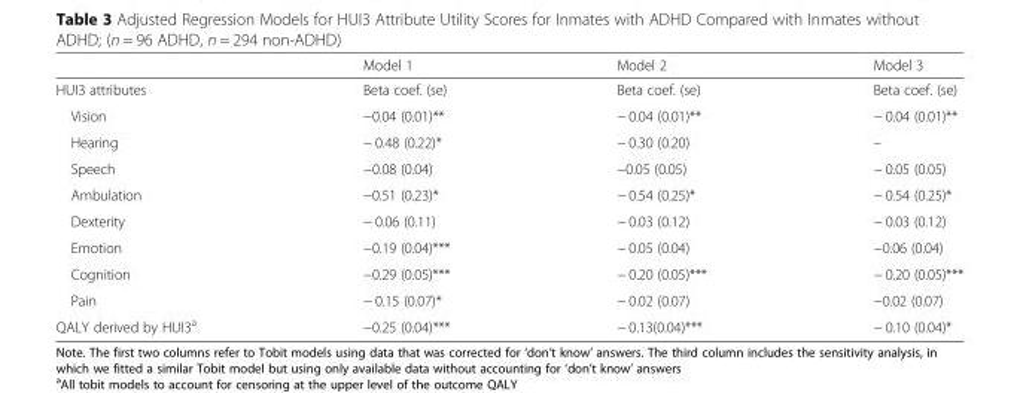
<table><thead><tr><td></td><td>Model 1</td><td>Model 2</td><td>Model 3</td></tr></thead><tbody><tr><td>HUI3 attributes</td><td>Beta coef. (se)</td><td>Beta coef. (se)</td><td>Beta coef. (se)</td></tr><tr><td>Vision</td><td>−0.04 (0.01)**</td><td>− 0.04 (0.01)**</td><td>− 0.04 (0.01)**</td></tr><tr><td>Hearing</td><td>− 0.48 (0.22)*</td><td>− 0.30 (0.20)</td><td>–</td></tr><tr><td>Speech</td><td>−0.08 (0.04)</td><td>−0.05 (0.05)</td><td>− 0.05 (0.05)</td></tr><tr><td>Ambulation</td><td>−0.51 (0.23)*</td><td>− 0.54 (0.25)*</td><td>− 0.54 (0.25)*</td></tr><tr><td>Dexterity</td><td>− 0.06 (0.11)</td><td>− 0.03 (0.12)</td><td>− 0.03 (0.12)</td></tr><tr><td>Emotion</td><td>−0.19 (0.04)***</td><td>− 0.05 (0.04)</td><td>−0.06 (0.04)</td></tr><tr><td>Cognition</td><td>−0.29 (0.05)***</td><td>− 0.20 (0.05)***</td><td>− 0.20 (0.05)***</td></tr><tr><td>Pain</td><td>− 0.15 (0.07)*</td><td>− 0.02 (0.07)</td><td>−0.02 (0.07)</td></tr><tr><td>QALY derived by HUI3<sup>a</sup></td><td>−0.25 (0.04)***</td><td>− 0.13(0.04)***</td><td>− 0.10 (0.04)*</td></tr></tbody></table>